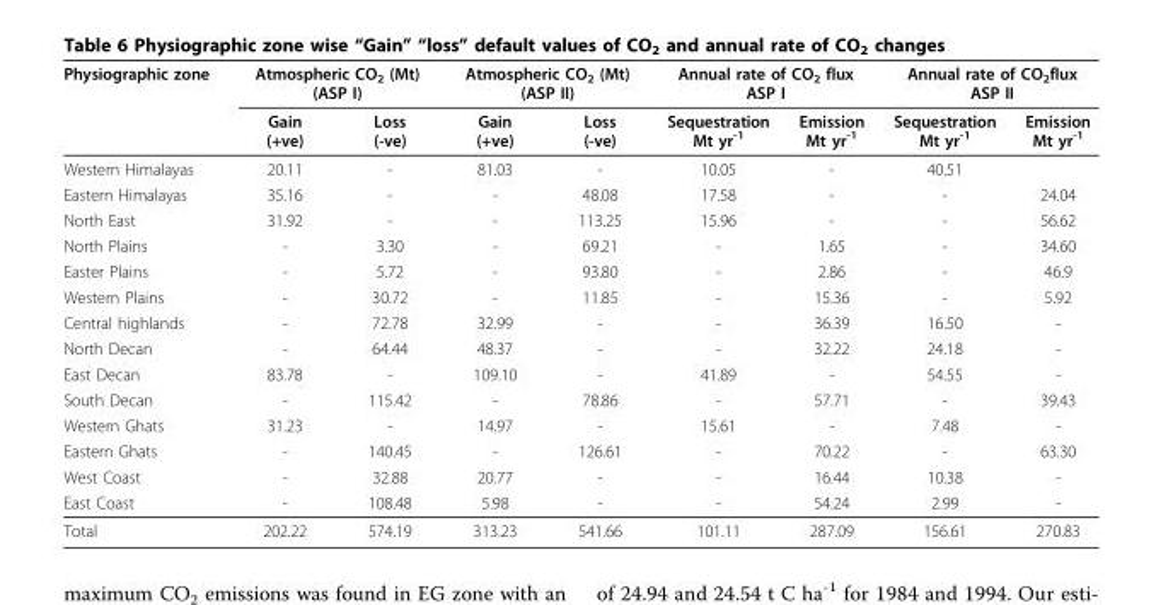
<table><thead><tr><td rowspan="2">Physiographic zone</td><td colspan="2">Atmospheric CO<sub>2</sub> (Mt) (ASP I)</td><td colspan="2">Atmospheric CO<sub>2</sub> (Mt) (ASP II)</td><td colspan="2">Annual rate of CO<sub>2</sub> flux ASP I</td><td colspan="2">Annual rate of CO<sub>2</sub>flux ASP II</td></tr><tr><td>Gain (+ve)</td><td>Loss (-ve)</td><td>Gain (+ve)</td><td>Loss (-ve)</td><td>Sequestration Mt yr<sup>-1</sup></td><td>Emission Mt yr<sup>-1</sup></td><td>Sequestration Mt yr<sup>-1</sup></td><td>Emission Mt yr<sup>-1</sup></td></tr></thead><tbody><tr><td>Western Himalayas</td><td>20.11</td><td>-</td><td>81.03</td><td>-</td><td>10.05</td><td>-</td><td>40.51</td><td></td></tr><tr><td>Eastern Himalayas</td><td>35.16</td><td>-</td><td>-</td><td>48.08</td><td>17.58</td><td>-</td><td>-</td><td>24.04</td></tr><tr><td>North East</td><td>31.92</td><td>-</td><td>-</td><td>113.25</td><td>15.96</td><td>-</td><td>-</td><td>56.62</td></tr><tr><td>North Plains</td><td>-</td><td>3.30</td><td>-</td><td>69.21</td><td>-</td><td>1.65</td><td>-</td><td>34.60</td></tr><tr><td>Easter Plains</td><td>-</td><td>5.72</td><td>-</td><td>93.80</td><td>-</td><td>2.86</td><td>-</td><td>46.9</td></tr><tr><td>Western Plains</td><td>-</td><td>30.72</td><td>-</td><td>11.85</td><td>-</td><td>15.36</td><td>-</td><td>5.92</td></tr><tr><td>Central highlands</td><td>-</td><td>72.78</td><td>32.99</td><td>-</td><td>-</td><td>36.39</td><td>16.50</td><td>-</td></tr><tr><td>North Decan</td><td>-</td><td>64.44</td><td>48.37</td><td>-</td><td>-</td><td>32.22</td><td>24.18</td><td>-</td></tr><tr><td>East Decan</td><td>83.78</td><td>-</td><td>109.10</td><td>-</td><td>41.89</td><td>-</td><td>54.55</td><td>-</td></tr><tr><td>South Decan</td><td>-</td><td>115.42</td><td>-</td><td>78.86</td><td>-</td><td>57.71</td><td>-</td><td>39.43</td></tr><tr><td>Western Ghats</td><td>31.23</td><td>-</td><td>14.97</td><td>-</td><td>15.61</td><td>-</td><td>7.48</td><td>-</td></tr><tr><td>Eastern Ghats</td><td>-</td><td>140.45</td><td>-</td><td>126.61</td><td>-</td><td>70.22</td><td>-</td><td>63.30</td></tr><tr><td>West Coast</td><td>-</td><td>32.88</td><td>20.77</td><td>-</td><td>-</td><td>16.44</td><td>10.38</td><td>-</td></tr><tr><td>East Coast</td><td>-</td><td>108.48</td><td>5.98</td><td>-</td><td>-</td><td>54.24</td><td>2.99</td><td>-</td></tr><tr><td>Total</td><td>202.22</td><td>574.19</td><td>313.23</td><td>541.66</td><td>101.11</td><td>287.09</td><td>156.61</td><td>270.83</td></tr></tbody></table>